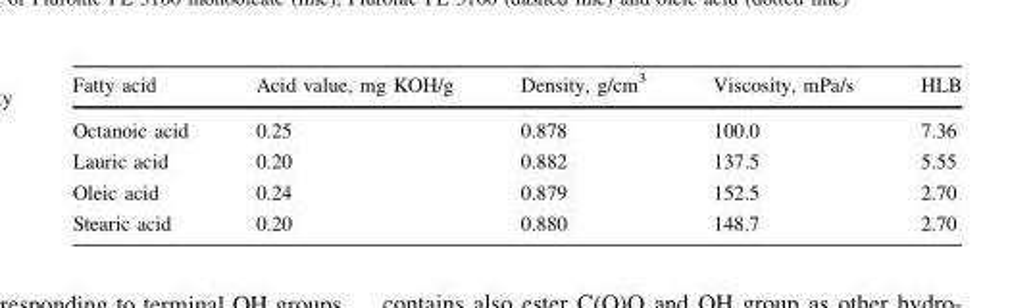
<table><thead><tr><td>Fatty acid</td><td>Acid value, mg KOH/g</td><td>Density, g/cm<sup>3</sup></td><td>Viscosity, mPa/s</td><td>HLB</td></tr></thead><tbody><tr><td>Octanoic acid</td><td>0.25</td><td>0.878</td><td>100.0</td><td>7.36</td></tr><tr><td>Lauric acid</td><td>0.20</td><td>0.882</td><td>137.5</td><td>5.55</td></tr><tr><td>Oleic acid</td><td>0.24</td><td>0.879</td><td>152.5</td><td>2.70</td></tr><tr><td>Stearic acid</td><td>0.20</td><td>0.880</td><td>148.7</td><td>2.70</td></tr></tbody></table>